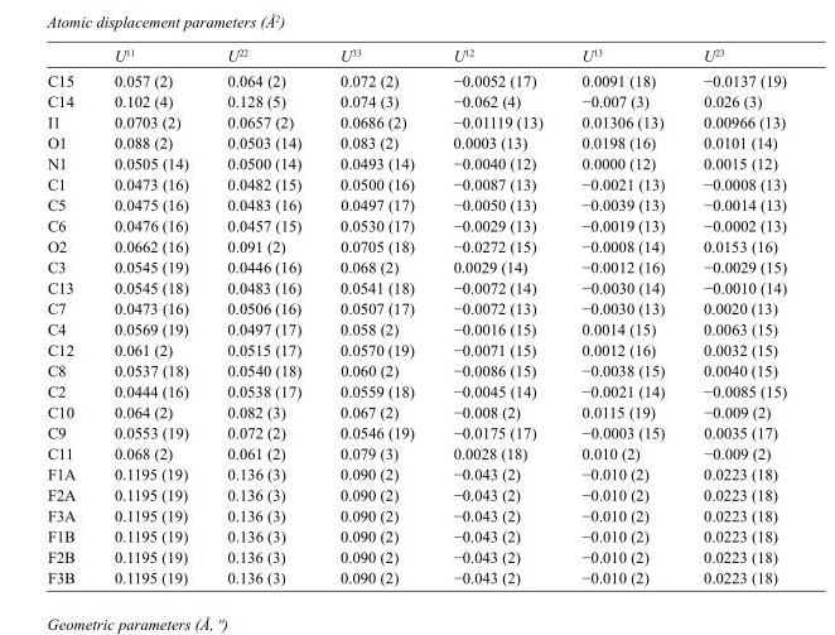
<table><thead><tr><td></td><td>U<sup>11</sup></td><td>U<sup>22</sup></td><td>U<sup>33</sup></td><td>U<sup>12</sup></td><td>U<sup>13</sup></td><td>U<sup>23</sup></td></tr></thead><tbody><tr><td>C15</td><td>0.057 (2)</td><td>0.064 (2)</td><td>0.072 (2)</td><td>−0.0052 (17)</td><td>0.0091 (18)</td><td>−0.0137 (19)</td></tr><tr><td>C14</td><td>0.102 (4)</td><td>0.128 (5)</td><td>0.074 (3)</td><td>−0.062 (4)</td><td>−0.007 (3)</td><td>0.026 (3)</td></tr><tr><td>I1</td><td>0.0703 (2)</td><td>0.0657 (2)</td><td>0.0686 (2)</td><td>−0.01119 (13)</td><td>0.01306 (13)</td><td>0.00966 (13)</td></tr><tr><td>O1</td><td>0.088 (2)</td><td>0.0503 (14)</td><td>0.083 (2)</td><td>0.0003 (13)</td><td>0.0198 (16)</td><td>0.0101 (14)</td></tr><tr><td>N1</td><td>0.0505 (14)</td><td>0.0500 (14)</td><td>0.0493 (14)</td><td>−0.0040 (12)</td><td>0.0000 (12)</td><td>0.0015 (12)</td></tr><tr><td>C1</td><td>0.0473 (16)</td><td>0.0482 (15)</td><td>0.0500 (16)</td><td>−0.0087 (13)</td><td>−0.0021 (13)</td><td>−0.0008 (13)</td></tr><tr><td>C5</td><td>0.0475 (16)</td><td>0.0483 (16)</td><td>0.0497 (17)</td><td>−0.0050 (13)</td><td>−0.0039 (13)</td><td>−0.0014 (13)</td></tr><tr><td>C6</td><td>0.0476 (16)</td><td>0.0457 (15)</td><td>0.0530 (17)</td><td>−0.0029 (13)</td><td>−0.0019 (13)</td><td>−0.0002 (13)</td></tr><tr><td>O2</td><td>0.0662 (16)</td><td>0.091 (2)</td><td>0.0705 (18)</td><td>−0.0272 (15)</td><td>−0.0008 (14)</td><td>0.0153 (16)</td></tr><tr><td>C3</td><td>0.0545 (19)</td><td>0.0446 (16)</td><td>0.068 (2)</td><td>0.0029 (14)</td><td>−0.0012 (16)</td><td>−0.0029 (15)</td></tr><tr><td>C13</td><td>0.0545 (18)</td><td>0.0483 (16)</td><td>0.0541 (18)</td><td>−0.0072 (14)</td><td>−0.0030 (14)</td><td>−0.0010 (14)</td></tr><tr><td>C7</td><td>0.0473 (16)</td><td>0.0506 (16)</td><td>0.0507 (17)</td><td>−0.0072 (13)</td><td>−0.0030 (13)</td><td>0.0020 (13)</td></tr><tr><td>C4</td><td>0.0569 (19)</td><td>0.0497 (17)</td><td>0.058 (2)</td><td>−0.0016 (15)</td><td>0.0014 (15)</td><td>0.0063 (15)</td></tr><tr><td>C12</td><td>0.061 (2)</td><td>0.0515 (17)</td><td>0.0570 (19)</td><td>−0.0071 (15)</td><td>0.0012 (16)</td><td>0.0032 (15)</td></tr><tr><td>C8</td><td>0.0537 (18)</td><td>0.0540 (18)</td><td>0.060 (2)</td><td>−0.0086 (15)</td><td>−0.0038 (15)</td><td>0.0040 (15)</td></tr><tr><td>C2</td><td>0.0444 (16)</td><td>0.0538 (17)</td><td>0.0559 (18)</td><td>−0.0045 (14)</td><td>−0.0021 (14)</td><td>−0.0085 (15)</td></tr><tr><td>C10</td><td>0.064 (2)</td><td>0.082 (3)</td><td>0.067 (2)</td><td>−0.008 (2)</td><td>0.0115 (19)</td><td>−0.009 (2)</td></tr><tr><td>C9</td><td>0.0553 (19)</td><td>0.072 (2)</td><td>0.0546 (19)</td><td>−0.0175 (17)</td><td>−0.0003 (15)</td><td>0.0035 (17)</td></tr><tr><td>C11</td><td>0.068 (2)</td><td>0.061 (2)</td><td>0.079 (3)</td><td>0.0028 (18)</td><td>0.010 (2)</td><td>−0.009 (2)</td></tr><tr><td>F1A</td><td>0.1195 (19)</td><td>0.136 (3)</td><td>0.090 (2)</td><td>−0.043 (2)</td><td>−0.010 (2)</td><td>0.0223 (18)</td></tr><tr><td>F2A</td><td>0.1195 (19)</td><td>0.136 (3)</td><td>0.090 (2)</td><td>−0.043 (2)</td><td>−0.010 (2)</td><td>0.0223 (18)</td></tr><tr><td>F3A</td><td>0.1195 (19)</td><td>0.136 (3)</td><td>0.090 (2)</td><td>−0.043 (2)</td><td>−0.010 (2)</td><td>0.0223 (18)</td></tr><tr><td>F1B</td><td>0.1195 (19)</td><td>0.136 (3)</td><td>0.090 (2)</td><td>−0.043 (2)</td><td>−0.010 (2)</td><td>0.0223 (18)</td></tr><tr><td>F2B</td><td>0.1195 (19)</td><td>0.136 (3)</td><td>0.090 (2)</td><td>−0.043 (2)</td><td>−0.010 (2)</td><td>0.0223 (18)</td></tr><tr><td>F3B</td><td>0.1195 (19)</td><td>0.136 (3)</td><td>0.090 (2)</td><td>−0.043 (2)</td><td>−0.010 (2)</td><td>0.0223 (18)</td></tr></tbody></table>